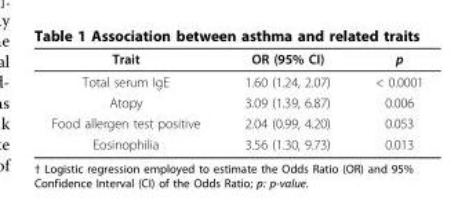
<table><thead><tr><td>Trait</td><td>OR (95% CI)</td><td>p</td></tr></thead><tbody><tr><td>Total serum IgE</td><td>1.60 (1.24, 2.07)</td><td>&lt; 0.0001</td></tr><tr><td>Atopy</td><td>3.09 (1.39, 6.87)</td><td>0.006</td></tr><tr><td>Food allergen test positive</td><td>2.04 (0.99, 4.20)</td><td>0.053</td></tr><tr><td>Eosinophilia</td><td>3.56 (1.30, 9.73)</td><td>0.013</td></tr></tbody></table>